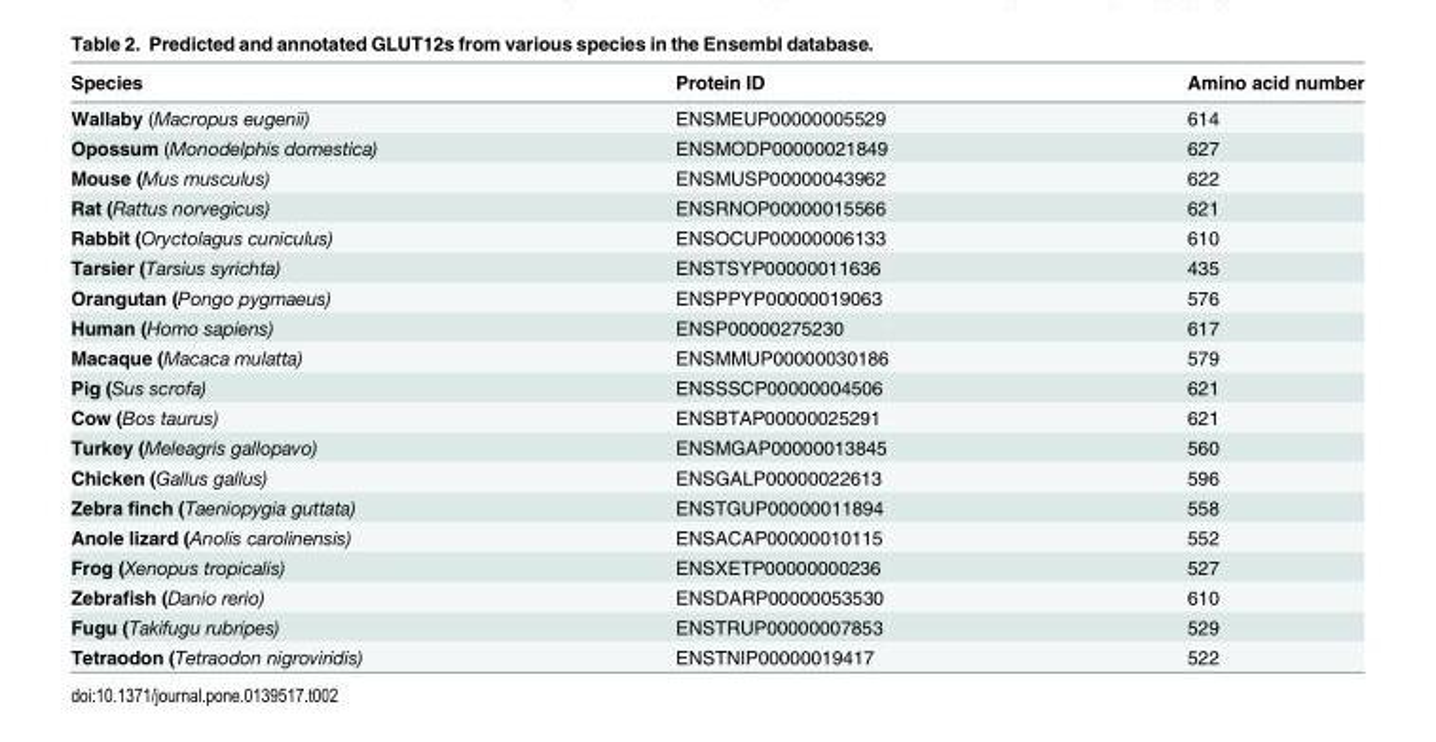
<table><thead><tr><td>Species</td><td>Protein ID</td><td>Amino acid number</td></tr></thead><tbody><tr><td>Wallaby (Macropus eugenii)</td><td>ENSMEUP00000005529</td><td>614</td></tr><tr><td>Opossum (Monodelphis domestica)</td><td>ENSMODP00000021849</td><td>627</td></tr><tr><td>Mouse (Mus musculus)</td><td>ENSMUSP00000043962</td><td>622</td></tr><tr><td>Rat (Rattus norvegicus)</td><td>ENSRNOP00000015566</td><td>621</td></tr><tr><td>Rabbit (Oryctolagus cuniculus)</td><td>ENSOCUP00000006133</td><td>610</td></tr><tr><td>Tarsier (Tarsius syrichta)</td><td>ENSTSYP00000011636</td><td>435</td></tr><tr><td>Orangutan (Pongo pygmaeus)</td><td>ENSPPYP00000019063</td><td>576</td></tr><tr><td>Human (Homo sapiens)</td><td>ENSP00000275230</td><td>617</td></tr><tr><td>Macaque (Macaca mulatta)</td><td>ENSMMUP00000030186</td><td>579</td></tr><tr><td>Pig (Sus scrofa)</td><td>ENSSSCP00000004506</td><td>621</td></tr><tr><td>Cow (Bos taurus)</td><td>ENSBTAP00000025291</td><td>621</td></tr><tr><td>Turkey (Meleagris gallopavo)</td><td>ENSMGAP00000013845</td><td>560</td></tr><tr><td>Chicken (Gallus gallus)</td><td>ENSGALP00000022613</td><td>596</td></tr><tr><td>Zebra finch (Taeniopygia guttata)</td><td>ENSTGUP00000011894</td><td>558</td></tr><tr><td>Anole lizard (Anolis carolinensis)</td><td>ENSACAP00000010115</td><td>552</td></tr><tr><td>Frog (Xenopus tropicalis)</td><td>ENSXETP00000000236</td><td>527</td></tr><tr><td>Zebrafish (Danio rerio)</td><td>ENSDARP00000053530</td><td>610</td></tr><tr><td>Fugu (Takifugu rubripes)</td><td>ENSTRUP00000007853</td><td>529</td></tr><tr><td>Tetraodon (Tetraodon nigroviridis)</td><td>ENSTNIP00000019417</td><td>522</td></tr></tbody></table>